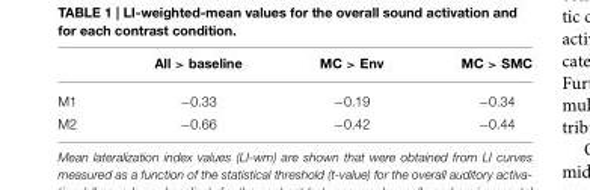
<table><thead><tr><td></td><td>All &gt; baseline</td><td>MC &gt; Env</td><td>MC &gt; SMC</td></tr></thead><tbody><tr><td>M1</td><td>−0.33</td><td>−0.19</td><td>−0.34</td></tr><tr><td>M2</td><td>−0.66</td><td>−0.42</td><td>−0.44</td></tr></tbody></table>